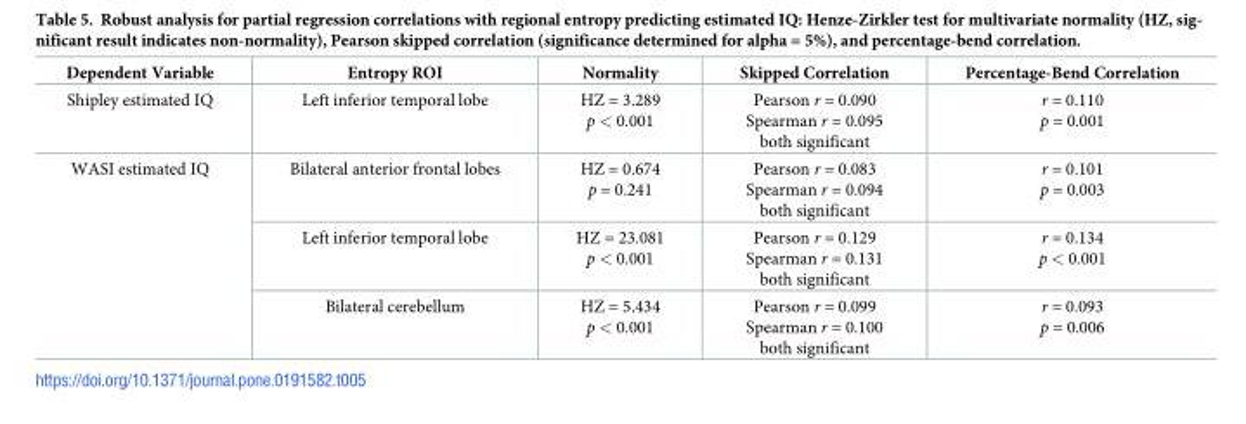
<table><thead><tr><td>Dependent Variable</td><td>Entropy ROI</td><td>Normality</td><td>Skipped Correlation</td><td>Percentage-Bend Correlation</td></tr></thead><tbody><tr><td>Shipley estimated IQ</td><td>Left inferior temporal lobe</td><td>HZ = 3.289 p &lt; 0.001</td><td>Pearson r = 0.090 Spearman r = 0.095 both significant</td><td>r = 0.110 p = 0.001</td></tr><tr><td rowspan="3">WASI estimated IQ</td><td>Bilateral anterior frontal lobes</td><td>HZ = 0.674 p = 0.241</td><td>Pearson r = 0.083 Spearman r = 0.094 both significant</td><td>r = 0.101 p = 0.003</td></tr><tr><td>Left inferior temporal lobe</td><td>HZ = 23.081 p &lt; 0.001</td><td>Pearson r = 0.129 Spearman r = 0.131 both significant</td><td>r = 0.134 p &lt; 0.001</td></tr><tr><td>Bilateral cerebellum</td><td>HZ = 5.434 p &lt; 0.001</td><td>Pearson r = 0.099 Spearman r = 0.100 both significant</td><td>r = 0.093 p = 0.006</td></tr></tbody></table>